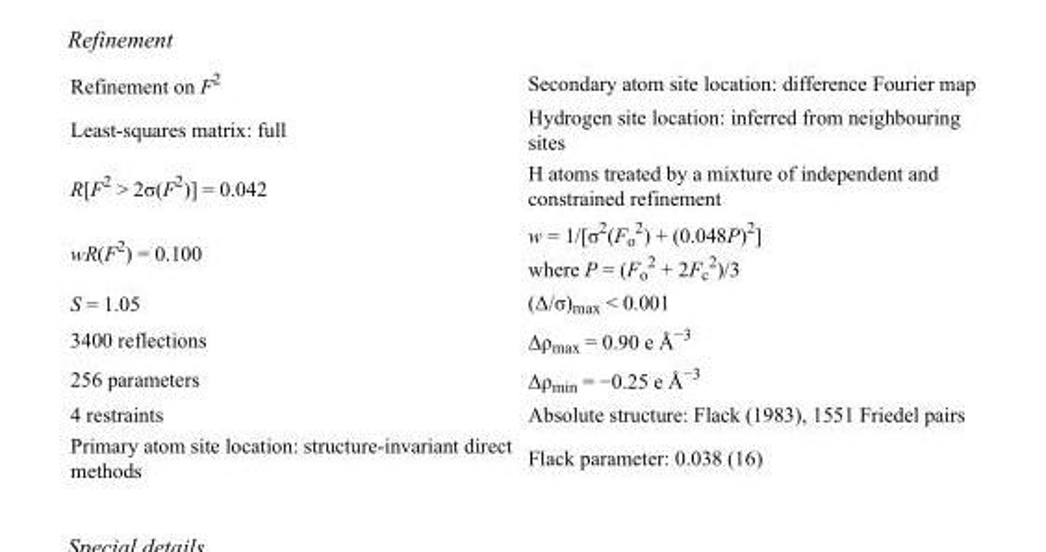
<table><tbody><tr><td>Refinement on F<sup>2</sup></td><td>Secondary atom site location: difference Fourier map</td></tr><tr><td>Least-squares matrix: full</td><td>Hydrogen site location: inferred from neighbouring sites</td></tr><tr><td>R[F<sup>2</sup> &gt; 2σ(F<sup>2</sup>)] = 0.042</td><td>H atoms treated by a mixture of independent and constrained refinement</td></tr><tr><td>wR(F<sup>2</sup>) = 0.100</td><td>w = 1/[σ<sup>2</sup>(F<sub>o</sub> <sup>2</sup>) + (0.048P)<sup>2</sup>] where P = (F<sub>o</sub> <sup>2</sup> + 2F<sub>c</sub> <sup>2</sup>)/3</td></tr><tr><td>S = 1.05</td><td>(Δ/σ)<sub>max</sub> &lt; 0.001</td></tr><tr><td>3400 reflections</td><td>Δρ<sub>max</sub> = 0.90 e Å<sup>−3</sup></td></tr><tr><td>256 parameters</td><td>Δρ<sub>min</sub> = −0.25 e Å<sup>−3</sup></td></tr><tr><td>4 restraints</td><td>Absolute structure: Flack (1983), 1551 Friedel pairs</td></tr><tr><td>Primary atom site location: structure-invariant direct methods</td><td>Flack parameter: 0.038 (16)</td></tr></tbody></table>